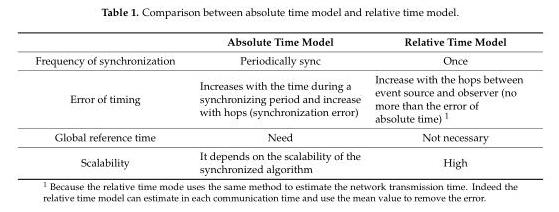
<table><thead><tr><td></td><td>Absolute Time Model</td><td>Relative Time Model</td></tr></thead><tbody><tr><td>Frequency of synchronization</td><td>Periodically sync</td><td>Once</td></tr><tr><td>Error of timing</td><td>Increases with the time during a synchronizing period and increase with hops (synchronization error)</td><td>Increase with the hops between event source and observer (no more than the error of absolute time) <sup>1</sup></td></tr><tr><td>Global reference time</td><td>Need</td><td>Not necessary</td></tr><tr><td>Scalability</td><td>It depends on the scalability of the synchronized algorithm</td><td>High</td></tr></tbody></table>